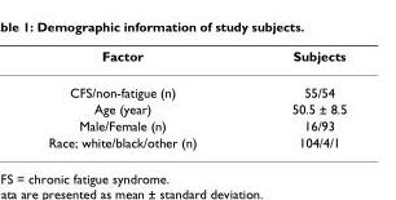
<table><thead><tr><td>Factor</td><td>Subjects</td></tr></thead><tbody><tr><td>CFS/non-fatigue (n)</td><td>55/54</td></tr><tr><td>Age (year)</td><td>50.5 ± 8.5</td></tr><tr><td>Male/Female (n)</td><td>16/93</td></tr><tr><td>Race; white/black/other (n)</td><td>104/4/1</td></tr></tbody></table>